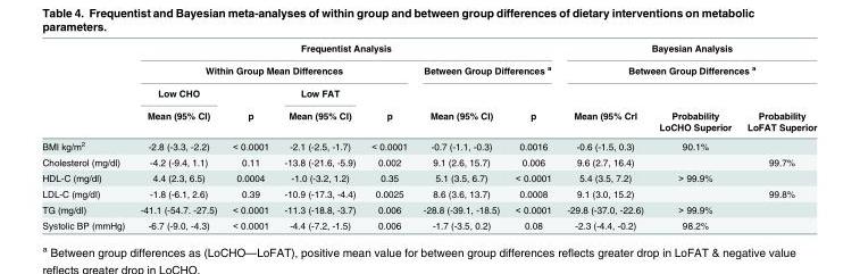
<table><thead><tr><td rowspan="4"></td><td colspan="6">Frequentist Analysis</td><td rowspan="2" colspan="3">Bayesian Analysis Between Group Differences <sup>a</sup></td></tr><tr><td colspan="4">Within Group Mean Differences</td><td colspan="2">Between Group Differences <sup>a</sup></td></tr><tr><td rowspan="2">Low CHO Mean (95% CI)</td><td rowspan="2">p</td><td rowspan="2">Low FAT Mean (95% CI)</td><td rowspan="2">p</td><td rowspan="2">Mean (95% CI)</td><td rowspan="2">p</td><td rowspan="2">Mean (95% CrI</td><td rowspan="2">Probability LoCHO Superior</td><td rowspan="2">Probability LoFAT Superior</td></tr><tr></tr></thead><tbody><tr><td>BMI kg/m<sup>2</sup></td><td>-2.8 (-3.3, -2.2)</td><td>&lt; 0.0001</td><td>-2.1 (-2.5, -1.7)</td><td>&lt; 0.0001</td><td>-0.7 (-1.1, -0.3)</td><td>0.0016</td><td>-0.6 (-1.5, 0.3)</td><td>90.1%</td><td></td></tr><tr><td>Cholesterol (mg/dl)</td><td>-4.2 (-9.4, 1.1)</td><td>0.11</td><td>-13.8 (-21.6, -5.9)</td><td>0.002</td><td>9.1 (2.6, 15.7)</td><td>0.006</td><td>9.6 (2.7, 16.4)</td><td></td><td>99.7%</td></tr><tr><td>HDL-C (mg/dl)</td><td>4.4 (2.3, 6.5)</td><td>0.0004</td><td>-1.0 (-3.2, 1.2)</td><td>0.35</td><td>5.1 (3.5, 6.7)</td><td>&lt; 0.0001</td><td>5.4 (3.5, 7.2)</td><td>&gt; 99.9%</td><td></td></tr><tr><td>LDL-C (mg/dl)</td><td>-1.8 (-6.1, 2.6)</td><td>0.39</td><td>-10.9 (-17.3, -4.4)</td><td>0.0025</td><td>8.6 (3.6, 13.7)</td><td>0.0008</td><td>9.1 (3.0, 15.2)</td><td></td><td>99.8%</td></tr><tr><td>TG (mg/dl)</td><td>-41.1 (-54.7. -27.5)</td><td>&lt; 0.0001</td><td>-11.3 (-18.8, -3.7)</td><td>0.006</td><td>-28.8 (-39.1, -18.5)</td><td>&lt; 0.0001</td><td>-29.8 (-37.0, -22.6)</td><td>&gt; 99.9%</td><td></td></tr><tr><td>Systolic BP (mmHg)</td><td>-6.7 (-9.0, -4.3)</td><td>&lt; 0.0001</td><td>-4.4 (-7.2, -1.5)</td><td>0.006</td><td>-1.7 (-3.5, 0.2)</td><td>0.08</td><td>-2.3 (-4.4, -0.2)</td><td>98.2%</td><td></td></tr></tbody></table>